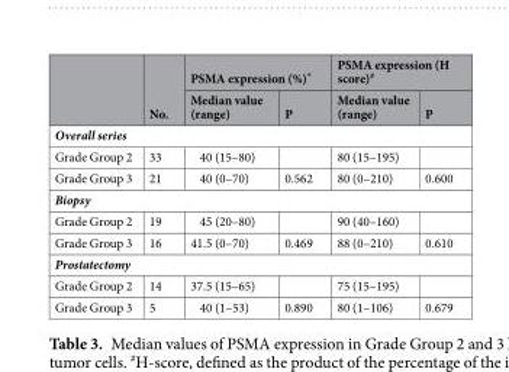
<table><thead><tr><td rowspan="2"></td><td rowspan="2">No.</td><td colspan="2">PSMA expression (%)*</td><td colspan="2">PSMA expression (H score)<sup>#</sup></td></tr><tr><td>Median value (range)</td><td>P</td><td>Median value (range)</td><td>P</td></tr></thead><tbody><tr><td colspan="6">Overall series</td></tr><tr><td>Grade Group 2</td><td>33</td><td>40 (15–80)</td><td></td><td>80 (15–195)</td><td></td></tr><tr><td>Grade Group 3</td><td>21</td><td>40 (0–70)</td><td>0.562</td><td>80 (0–210)</td><td>0.600</td></tr><tr><td colspan="6">Biopsy</td></tr><tr><td>Grade Group 2</td><td>19</td><td>45 (20–80)</td><td></td><td>90 (40–160)</td><td></td></tr><tr><td>Grade Group 3</td><td>16</td><td>41.5 (0–70)</td><td>0.469</td><td>88 (0–210)</td><td>0.610</td></tr><tr><td colspan="6">Prostatectomy</td></tr><tr><td>Grade Group 2</td><td>14</td><td>37.5 (15–65)</td><td></td><td>75 (15–195)</td><td></td></tr><tr><td>Grade Group 3</td><td>5</td><td>40 (1–53)</td><td>0.890</td><td>80 (1–106)</td><td>0.679</td></tr></tbody></table>